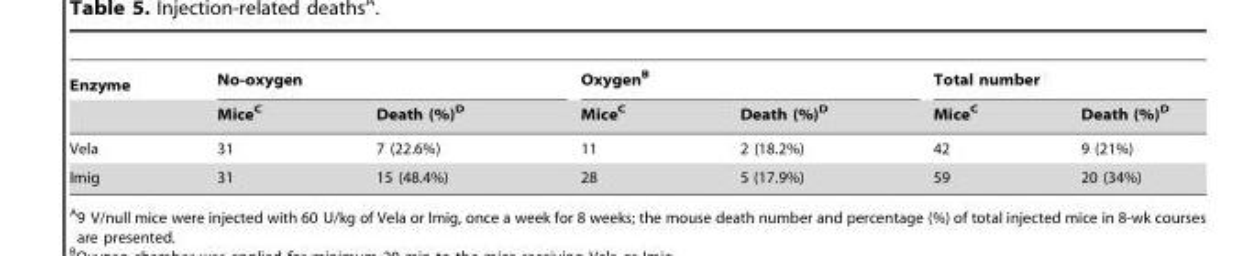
<table><thead><tr><td rowspan="2">Enzyme</td><td colspan="2">No-oxygen</td><td colspan="2">Oxygen<sup>B</sup></td><td colspan="2">Total number</td></tr><tr><td>Mice<sup>C</sup></td><td>Death (%)<sup>D</sup></td><td>Mice<sup>C</sup></td><td>Death (%)<sup>D</sup></td><td>Mice<sup>C</sup></td><td>Death (%)<sup>D</sup></td></tr></thead><tbody><tr><td>Vela</td><td>31</td><td>7 (22.6%)</td><td>11</td><td>2 (18.2%)</td><td>42</td><td>9 (21%)</td></tr><tr><td>Imig</td><td>31</td><td>15 (48.4%)</td><td>28</td><td>5 (17.9%)</td><td>59</td><td>20 (34%)</td></tr></tbody></table>